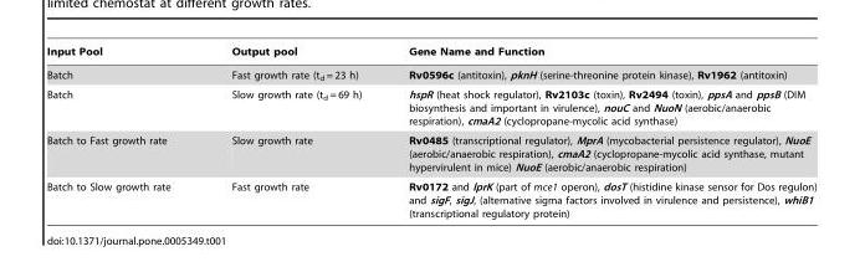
<table><thead><tr><td>Input Pool</td><td>Output pool</td><td>Gene Name and Function</td></tr></thead><tbody><tr><td>Batch</td><td>Fast growth rate (t<sub>d</sub> = 23 h)</td><td>Rv0596c (antitoxin), pknH (serine-threonine protein kinase), Rv1962 (antitoxin)</td></tr><tr><td>Batch</td><td>Slow growth rate (t<sub>d</sub> = 69 h)</td><td>hspR (heat shock regulator), Rv2103c (toxin), Rv2494 (toxin), ppsA and ppsB (DIM biosynthesis and important in virulence), nouC and NuoN (aerobic/anaerobic respiration), cmaA2 (cyclopropane-mycolic acid synthase)</td></tr><tr><td>Batch to Fast growth rate</td><td>Slow growth rate</td><td>Rv0485 (transcriptional regulator), MprA (mycobacterial persistence regulator), NuoE (aerobic/anaerobic respiration), cmaA2 (cyclopropane-mycolic acid synthase, mutant hypervirulent in mice) NuoE (aerobic/anaerobic respiration)</td></tr><tr><td>Batch to Slow growth rate</td><td>Fast growth rate</td><td>Rv0172 and lprK (part of mce1 operon), dosT (histidine kinase sensor for Dos regulon) and sigF, sigJ, (alternative sigma factors involved in virulence and persistence), whiB1 (transcriptional regulatory protein)</td></tr></tbody></table>